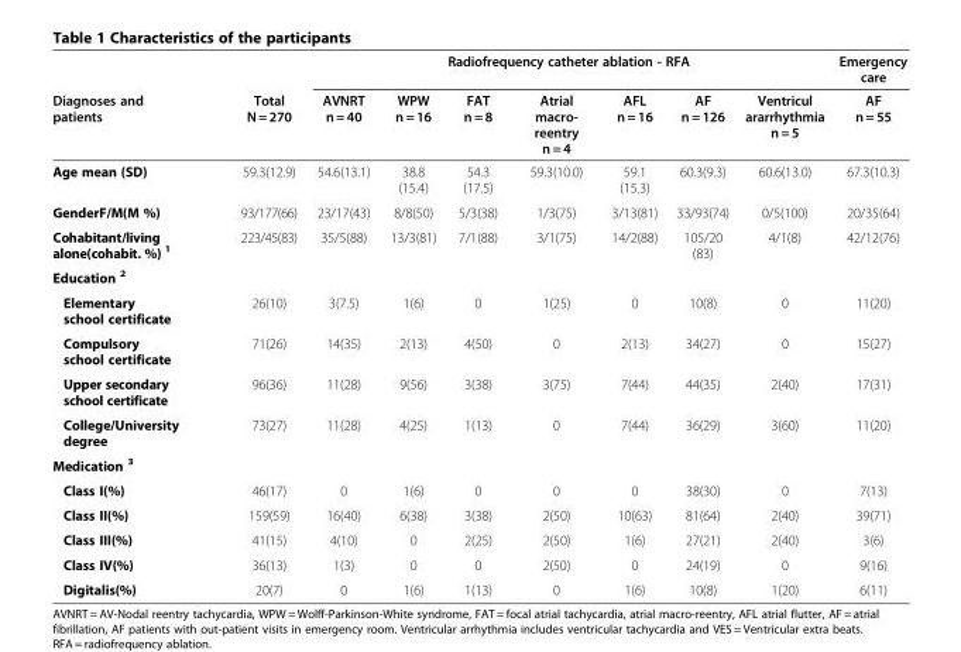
<table><thead><tr><td rowspan="2">Diagnoses and patients</td><td rowspan="2">Total N = 270</td><td colspan="7">Radiofrequency catheter ablation - RFA</td><td rowspan="2">Emergency care AF n = 55</td></tr><tr><td>AVNRT n = 40</td><td>WPW n = 16</td><td>FAT n = 8</td><td>Atrial macro- reentry n = 4</td><td>AFL n = 16</td><td>AF n = 126</td><td>Ventricul ararrhythmia n = 5</td></tr></thead><tbody><tr><td>Age mean (SD)</td><td>59.3(12.9)</td><td>54.6(13.1)</td><td>38.8 (15.4)</td><td>54.3 (17.5)</td><td>59.3(10.0)</td><td>59.1 (15.3)</td><td>60.3(9.3)</td><td>60.6(13.0)</td><td>67.3(10.3)</td></tr><tr><td>GenderF/M(M %)</td><td>93/177(66)</td><td>23/17(43)</td><td>8/8(50)</td><td>5/3(38)</td><td>1/3(75)</td><td>3/13(81)</td><td>33/93(74)</td><td>0/5(100)</td><td>20/35(64)</td></tr><tr><td>Cohabitant/living alone(cohabit. %) <sup>1</sup></td><td>223/45(83)</td><td>35/5(88)</td><td>13/3(81)</td><td>7/1(88)</td><td>3/1(75)</td><td>14/2(88)</td><td>105/20 (83)</td><td>4/1(8)</td><td>42/12(76)</td></tr><tr><td colspan="10">Education <sup>2</sup></td></tr><tr><td>Elementary school certificate</td><td>26(10)</td><td>3(7.5)</td><td>1(6)</td><td>0</td><td>1(25)</td><td>0</td><td>10(8)</td><td>0</td><td>11(20)</td></tr><tr><td>Compulsory school certificate</td><td>71(26)</td><td>14(35)</td><td>2(13)</td><td>4(50)</td><td>0</td><td>2(13)</td><td>34(27)</td><td>0</td><td>15(27)</td></tr><tr><td>Upper secondary school certificate</td><td>96(36)</td><td>11(28)</td><td>9(56)</td><td>3(38)</td><td>3(75)</td><td>7(44)</td><td>44(35)</td><td>2(40)</td><td>17(31)</td></tr><tr><td>College/University degree</td><td>73(27)</td><td>11(28)</td><td>4(25)</td><td>1(13)</td><td>0</td><td>7(44)</td><td>36(29)</td><td>3(60)</td><td>11(20)</td></tr><tr><td colspan="10">Medication <sup>3</sup></td></tr><tr><td>Class I(%)</td><td>46(17)</td><td>0</td><td>1(6)</td><td>0</td><td>0</td><td>0</td><td>38(30)</td><td>0</td><td>7(13)</td></tr><tr><td>Class II(%)</td><td>159(59)</td><td>16(40)</td><td>6(38)</td><td>3(38)</td><td>2(50)</td><td>10(63)</td><td>81(64)</td><td>2(40)</td><td>39(71)</td></tr><tr><td>Class III(%)</td><td>41(15)</td><td>4(10)</td><td>0</td><td>2(25)</td><td>2(50)</td><td>1(6)</td><td>27(21)</td><td>2(40)</td><td>3(6)</td></tr><tr><td>Class IV(%)</td><td>36(13)</td><td>1(3)</td><td>0</td><td>0</td><td>2(50)</td><td>0</td><td>24(19)</td><td>0</td><td>9(16)</td></tr><tr><td>Digitalis(%)</td><td>20(7)</td><td>0</td><td>1(6)</td><td>1(13)</td><td>0</td><td>1(6)</td><td>10(8)</td><td>1(20)</td><td>6(11)</td></tr></tbody></table>